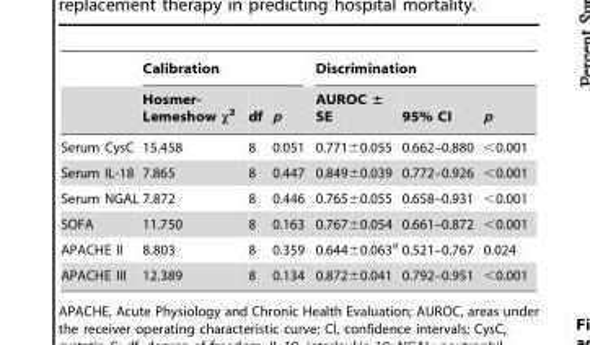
<table><thead><tr><td rowspan="2"></td><td colspan="3">Calibration</td><td colspan="3">Discrimination</td></tr><tr><td>Hosmer- Lemeshow χ<sup>2</sup></td><td>df</td><td>p</td><td>AUROC ± SE</td><td>95% CI</td><td>p</td></tr></thead><tbody><tr><td>Serum CysC</td><td>15.458</td><td>8</td><td>0.051</td><td>0.771±0.055</td><td>0.662–0.880</td><td>&lt;0.001</td></tr><tr><td>Serum IL-18</td><td>7.865</td><td>8</td><td>0.447</td><td>0.849±0.039</td><td>0.772–0.926</td><td>&lt;0.001</td></tr><tr><td>Serum NGAL</td><td>7.872</td><td>8</td><td>0.446</td><td>0.765±0.055</td><td>0.658–0.931</td><td>&lt;0.001</td></tr><tr><td>SOFA</td><td>11.750</td><td>8</td><td>0.163</td><td>0.767±0.054</td><td>0.661–0.872</td><td>&lt;0.001</td></tr><tr><td>APACHE II</td><td>8.803</td><td>8</td><td>0.359</td><td>0.644±0.063<sup>a</sup></td><td>0.521–0.767</td><td>0.024</td></tr><tr><td>APACHE III</td><td>12.389</td><td>8</td><td>0.134</td><td>0.872±0.041</td><td>0.792–0.951</td><td>&lt;0.001</td></tr></tbody></table>